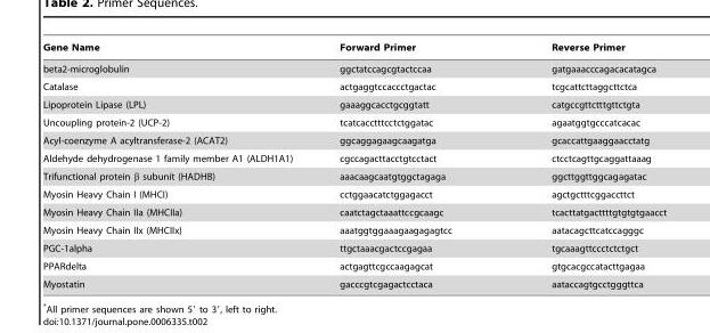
<table><thead><tr><td>Gene Name</td><td>Forward Primer</td><td>Reverse Primer</td></tr></thead><tbody><tr><td>beta2-microglobulin</td><td>ggctatccagcgtactccaa</td><td>gatgaaacccagacacatagca</td></tr><tr><td>Catalase</td><td>actgaggtccaccctgactac</td><td>tcgcattcttaggcttctca</td></tr><tr><td>Lipoprotein Lipase (LPL)</td><td>gaaaggcacctgcggtatt</td><td>catgccgttctttgttctgta</td></tr><tr><td>Uncoupling protein-2 (UCP-2)</td><td>tcatcacctttcctctggatac</td><td>agaatggtgcccatcacac</td></tr><tr><td>Acyl-coenzyme A acyltransferase-2 (ACAT2)</td><td>ggcaggagaagcaagatga</td><td>gcaccattgaaggaacctatg</td></tr><tr><td>Aldehyde dehydrogenase 1 family member A1 (ALDH1A1)</td><td>cgccagacttacctgtcctact</td><td>ctcctcagttgcaggattaaag</td></tr><tr><td>Trifunctional protein β subunit (HADHB)</td><td>aaacaagcaatgtggctagaga</td><td>ggcttggttggcagagatac</td></tr><tr><td>Myosin Heavy Chain I (MHCI)</td><td>cctggaacatctggagacct</td><td>agctgctttcggaccttct</td></tr><tr><td>Myosin Heavy Chain IIa (MHCIIa)</td><td>caatctagctaaattccgcaagc</td><td>tcacttatgacttttgtgtgtgaacct</td></tr><tr><td>Myosin Heavy Chain IIx (MHCIIx)</td><td>aaatggtggaaagaagagagtcc</td><td>aatacagcttcatccagggc</td></tr><tr><td>PGC-1alpha</td><td>ttgctaaacgactccgagaa</td><td>tgcaaagttccctctctgct</td></tr><tr><td>PPARdelta</td><td>actgagttcgccaagagcat</td><td>gtgcacgccatacttgagaa</td></tr><tr><td>Myostatin</td><td>gacccgtcgagactcctaca</td><td>aataccagtgcctgggttca</td></tr></tbody></table>